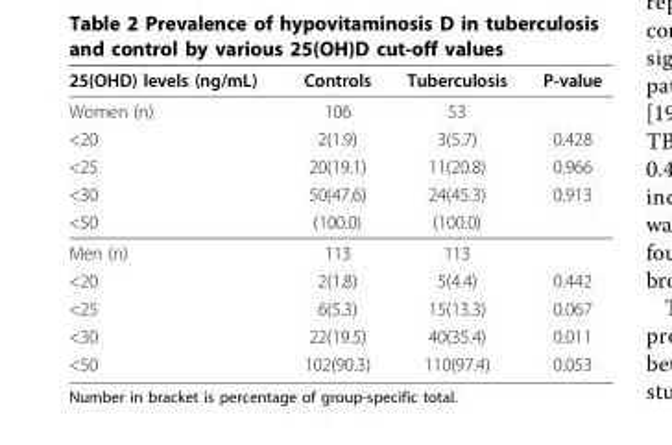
<table><thead><tr><td>25(OHD) levels (ng/mL)</td><td>Controls</td><td>Tuberculosis</td><td>P-value</td></tr></thead><tbody><tr><td>Women (n)</td><td>106</td><td>53</td><td></td></tr><tr><td>&lt;20</td><td>2(1.9)</td><td>3(5.7)</td><td>0.428</td></tr><tr><td>&lt;25</td><td>20(19.1)</td><td>11(20.8)</td><td>0.966</td></tr><tr><td>&lt;30</td><td>50(47.6)</td><td>24(45.3)</td><td>0.913</td></tr><tr><td>&lt;50</td><td>(100.0)</td><td>(100.0)</td><td></td></tr><tr><td>Men (n)</td><td>113</td><td>113</td><td></td></tr><tr><td>&lt;20</td><td>2(1.8)</td><td>5(4.4)</td><td>0.442</td></tr><tr><td>&lt;25</td><td>6(5.3)</td><td>15(13.3)</td><td>0.067</td></tr><tr><td>&lt;30</td><td>22(19.5)</td><td>40(35.4)</td><td>0.011</td></tr><tr><td>&lt;50</td><td>102(90.3)</td><td>110(97.4)</td><td>0.053</td></tr></tbody></table>